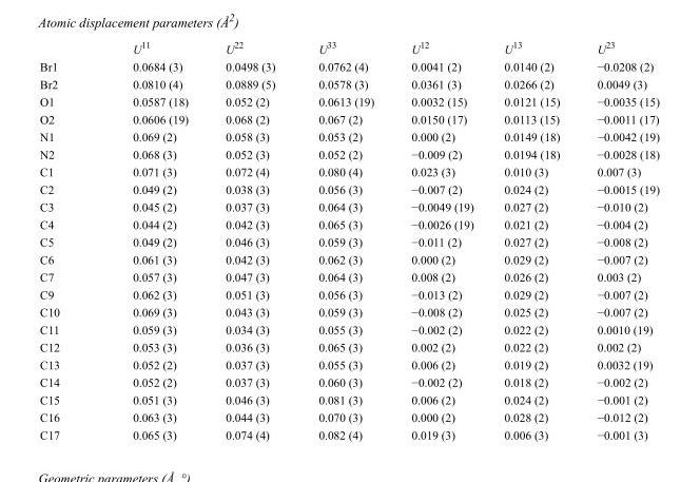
<table><thead><tr><td></td><td>U<sup>11</sup></td><td>U<sup>22</sup></td><td>U<sup>33</sup></td><td>U<sup>12</sup></td><td>U<sup>13</sup></td><td>U<sup>23</sup></td></tr></thead><tbody><tr><td>Br1</td><td>0.0684 (3)</td><td>0.0498 (3)</td><td>0.0762 (4)</td><td>0.0041 (2)</td><td>0.0140 (2)</td><td>−0.0208 (2)</td></tr><tr><td>Br2</td><td>0.0810 (4)</td><td>0.0889 (5)</td><td>0.0578 (3)</td><td>0.0361 (3)</td><td>0.0266 (2)</td><td>0.0049 (3)</td></tr><tr><td>O1</td><td>0.0587 (18)</td><td>0.052 (2)</td><td>0.0613 (19)</td><td>0.0032 (15)</td><td>0.0121 (15)</td><td>−0.0035 (15)</td></tr><tr><td>O2</td><td>0.0606 (19)</td><td>0.068 (2)</td><td>0.067 (2)</td><td>0.0150 (17)</td><td>0.0113 (15)</td><td>−0.0011 (17)</td></tr><tr><td>N1</td><td>0.069 (2)</td><td>0.058 (3)</td><td>0.053 (2)</td><td>0.000 (2)</td><td>0.0149 (18)</td><td>−0.0042 (19)</td></tr><tr><td>N2</td><td>0.068 (3)</td><td>0.052 (3)</td><td>0.052 (2)</td><td>−0.009 (2)</td><td>0.0194 (18)</td><td>−0.0028 (18)</td></tr><tr><td>C1</td><td>0.071 (3)</td><td>0.072 (4)</td><td>0.080 (4)</td><td>0.023 (3)</td><td>0.010 (3)</td><td>0.007 (3)</td></tr><tr><td>C2</td><td>0.049 (2)</td><td>0.038 (3)</td><td>0.056 (3)</td><td>−0.007 (2)</td><td>0.024 (2)</td><td>−0.0015 (19)</td></tr><tr><td>C3</td><td>0.045 (2)</td><td>0.037 (3)</td><td>0.064 (3)</td><td>−0.0049 (19)</td><td>0.027 (2)</td><td>−0.010 (2)</td></tr><tr><td>C4</td><td>0.044 (2)</td><td>0.042 (3)</td><td>0.065 (3)</td><td>−0.0026 (19)</td><td>0.021 (2)</td><td>−0.004 (2)</td></tr><tr><td>C5</td><td>0.049 (2)</td><td>0.046 (3)</td><td>0.059 (3)</td><td>−0.011 (2)</td><td>0.027 (2)</td><td>−0.008 (2)</td></tr><tr><td>C6</td><td>0.061 (3)</td><td>0.042 (3)</td><td>0.062 (3)</td><td>0.000 (2)</td><td>0.029 (2)</td><td>−0.007 (2)</td></tr><tr><td>C7</td><td>0.057 (3)</td><td>0.047 (3)</td><td>0.064 (3)</td><td>0.008 (2)</td><td>0.026 (2)</td><td>0.003 (2)</td></tr><tr><td>C9</td><td>0.062 (3)</td><td>0.051 (3)</td><td>0.056 (3)</td><td>−0.013 (2)</td><td>0.029 (2)</td><td>−0.007 (2)</td></tr><tr><td>C10</td><td>0.069 (3)</td><td>0.043 (3)</td><td>0.059 (3)</td><td>−0.008 (2)</td><td>0.025 (2)</td><td>−0.007 (2)</td></tr><tr><td>C11</td><td>0.059 (3)</td><td>0.034 (3)</td><td>0.055 (3)</td><td>−0.002 (2)</td><td>0.022 (2)</td><td>0.0010 (19)</td></tr><tr><td>C12</td><td>0.053 (3)</td><td>0.036 (3)</td><td>0.065 (3)</td><td>0.002 (2)</td><td>0.022 (2)</td><td>0.002 (2)</td></tr><tr><td>C13</td><td>0.052 (2)</td><td>0.037 (3)</td><td>0.055 (3)</td><td>0.006 (2)</td><td>0.019 (2)</td><td>0.0032 (19)</td></tr><tr><td>C14</td><td>0.052 (2)</td><td>0.037 (3)</td><td>0.060 (3)</td><td>−0.002 (2)</td><td>0.018 (2)</td><td>−0.002 (2)</td></tr><tr><td>C15</td><td>0.051 (3)</td><td>0.046 (3)</td><td>0.081 (3)</td><td>0.006 (2)</td><td>0.024 (2)</td><td>−0.001 (2)</td></tr><tr><td>C16</td><td>0.063 (3)</td><td>0.044 (3)</td><td>0.070 (3)</td><td>0.000 (2)</td><td>0.028 (2)</td><td>−0.012 (2)</td></tr><tr><td>C17</td><td>0.065 (3)</td><td>0.074 (4)</td><td>0.082 (4)</td><td>0.019 (3)</td><td>0.006 (3)</td><td>−0.001 (3)</td></tr></tbody></table>